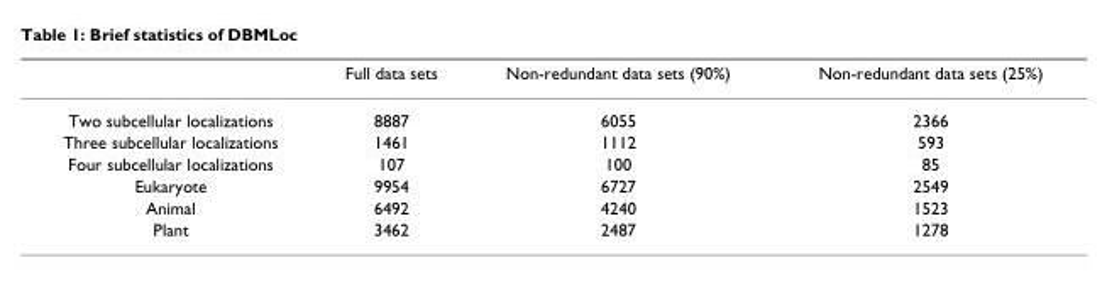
<table><thead><tr><td></td><td>Full data sets</td><td>Non-redundant data sets (90%)</td><td>Non-redundant data sets (25%)</td></tr></thead><tbody><tr><td>Two subcellular localizations</td><td>8887</td><td>6055</td><td>2366</td></tr><tr><td>Three subcellular localizations</td><td>1461</td><td>1112</td><td>593</td></tr><tr><td>Four subcellular localizations</td><td>107</td><td>100</td><td>85</td></tr><tr><td>Eukaryote</td><td>9954</td><td>6727</td><td>2549</td></tr><tr><td>Animal</td><td>6492</td><td>4240</td><td>1523</td></tr><tr><td>Plant</td><td>3462</td><td>2487</td><td>1278</td></tr></tbody></table>